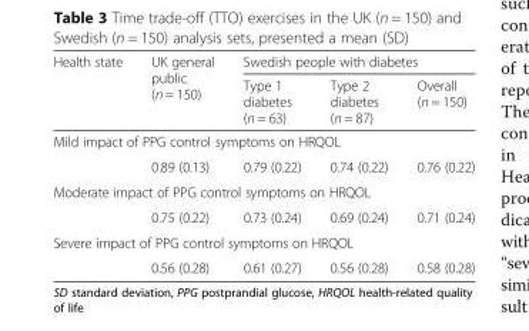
<table><thead><tr><td rowspan="2">Health state</td><td rowspan="2">UK general public (n = 150)</td><td colspan="3">Swedish people with diabetes</td></tr><tr><td>Type 1 diabetes (n = 63)</td><td>Type 2 diabetes (n = 87)</td><td>Overall (n = 150)</td></tr></thead><tbody><tr><td colspan="5">Mild impact of PPG control symptoms on HRQOL</td></tr><tr><td></td><td>0.89 (0.13)</td><td>0.79 (0.22)</td><td>0.74 (0.22)</td><td>0.76 (0.22)</td></tr><tr><td colspan="5">Moderate impact of PPG control symptoms on HRQOL</td></tr><tr><td></td><td>0.75 (0.22)</td><td>0.73 (0.24)</td><td>0.69 (0.24)</td><td>0.71 (0.24)</td></tr><tr><td colspan="5">Severe impact of PPG control symptoms on HRQOL</td></tr><tr><td></td><td>0.56 (0.28)</td><td>0.61 (0.27)</td><td>0.56 (0.28)</td><td>0.58 (0.28)</td></tr></tbody></table>